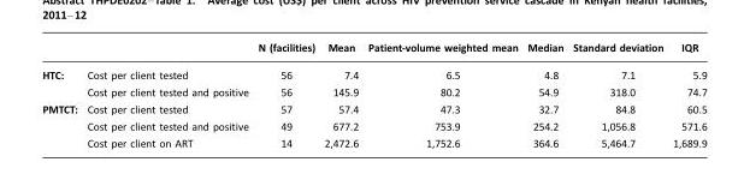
<table><thead><tr><td></td><td></td><td>N (facilities)</td><td>Mean</td><td>Patient-volume weighted mean</td><td>Median</td><td>Standard deviation</td><td>IQR</td></tr></thead><tbody><tr><td rowspan="2">HTC:</td><td>Cost per client tested</td><td>56</td><td>7.4</td><td>6.5</td><td>4.8</td><td>7.1</td><td>5.9</td></tr><tr><td>Cost per client tested and positive</td><td>56</td><td>145.9</td><td>80.2</td><td>54.9</td><td>318.0</td><td>74.7</td></tr><tr><td rowspan="3">PMTCT:</td><td>Cost per client tested</td><td>57</td><td>57.4</td><td>47.3</td><td>32.7</td><td>84.8</td><td>60.5</td></tr><tr><td>Cost per client tested and positive</td><td>49</td><td>677.2</td><td>753.9</td><td>254.2</td><td>1,056.8</td><td>571.6</td></tr><tr><td>Cost per client on ART</td><td>14</td><td>2,472.6</td><td>1,752.6</td><td>364.6</td><td>5,464.7</td><td>1,689.9</td></tr></tbody></table>